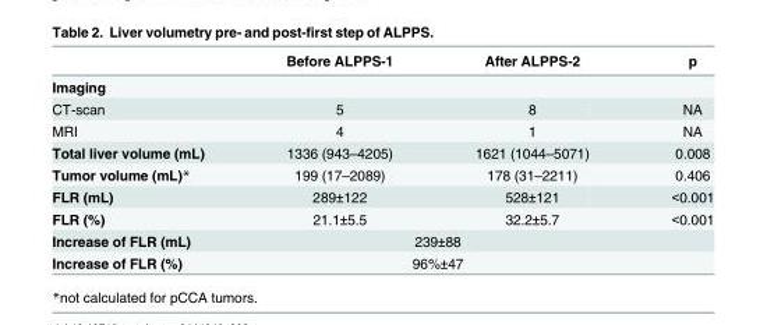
<table><thead><tr><td></td><td>Before ALPPS-1</td><td>After ALPPS-2</td><td>p</td></tr></thead><tbody><tr><td colspan="4">Imaging</td></tr><tr><td>CT-scan</td><td>5</td><td>8</td><td>NA</td></tr><tr><td>MRI</td><td>4</td><td>1</td><td>NA</td></tr><tr><td>Total liver volume (mL)</td><td>1336 (943–4205)</td><td>1621 (1044–5071)</td><td>0.008</td></tr><tr><td>Tumor volume (mL)*</td><td>199 (17–2089)</td><td>178 (31–2211)</td><td>0.406</td></tr><tr><td>FLR (mL)</td><td>289±122</td><td>528±121</td><td>&lt;0.001</td></tr><tr><td>FLR (%)</td><td>21.1±5.5</td><td>32.2±5.7</td><td>&lt;0.001</td></tr><tr><td>Increase of FLR (mL)</td><td colspan="2">239±88</td><td></td></tr><tr><td>Increase of FLR (%)</td><td colspan="2">96%±47</td><td></td></tr></tbody></table>